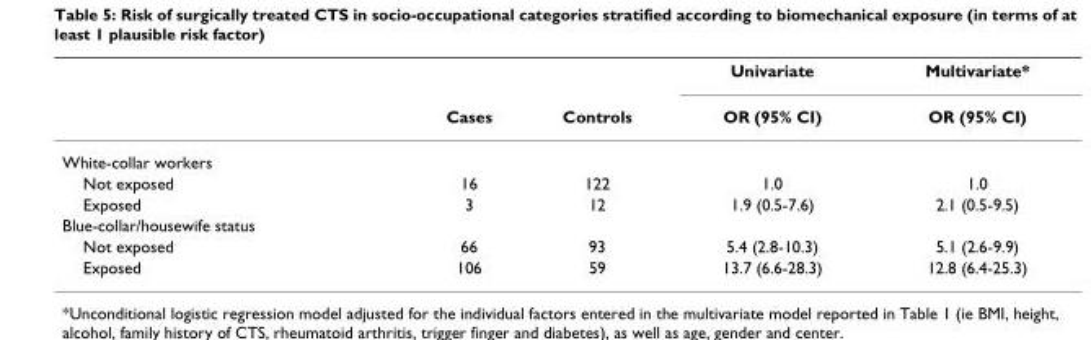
<table><thead><tr><td rowspan="2"></td><td rowspan="2">Cases</td><td rowspan="2">Controls</td><td rowspan="2">Univariate OR (95% CI)</td><td rowspan="2">Multivariate* OR (95% CI)</td></tr><tr></tr></thead><tbody><tr><td colspan="5">White-collar workers</td></tr><tr><td>Not exposed</td><td>16</td><td>122</td><td>1.0</td><td>1.0</td></tr><tr><td>Exposed</td><td>3</td><td>12</td><td>1.9 (0.5-7.6)</td><td>2.1 (0.5-9.5)</td></tr><tr><td colspan="5">Blue-collar/housewife status</td></tr><tr><td>Not exposed</td><td>66</td><td>93</td><td>5.4 (2.8-10.3)</td><td>5.1 (2.6-9.9)</td></tr><tr><td>Exposed</td><td>106</td><td>59</td><td>13.7 (6.6-28.3)</td><td>12.8 (6.4-25.3)</td></tr></tbody></table>